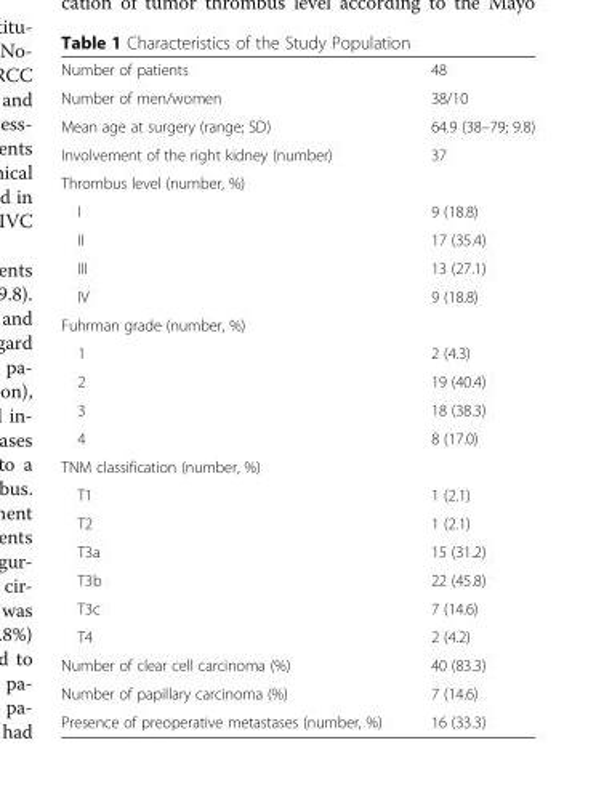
<table><tbody><tr><td>Number of patients</td><td>48</td></tr><tr><td>Number of men/women</td><td>38/10</td></tr><tr><td>Mean age at surgery (range; SD)</td><td>64.9 (38–79; 9.8)</td></tr><tr><td>Involvement of the right kidney (number)</td><td>37</td></tr><tr><td colspan="2">Thrombus level (number, %)</td></tr><tr><td>I</td><td>9 (18.8)</td></tr><tr><td>II</td><td>17 (35.4)</td></tr><tr><td>III</td><td>13 (27.1)</td></tr><tr><td>IV</td><td>9 (18.8)</td></tr><tr><td colspan="2">Fuhrman grade (number, %)</td></tr><tr><td>1</td><td>2 (4.3)</td></tr><tr><td>2</td><td>19 (40.4)</td></tr><tr><td>3</td><td>18 (38.3)</td></tr><tr><td>4</td><td>8 (17.0)</td></tr><tr><td colspan="2">TNM classification (number, %)</td></tr><tr><td>T1</td><td>1 (2.1)</td></tr><tr><td>T2</td><td>1 (2.1)</td></tr><tr><td>T3a</td><td>15 (31.2)</td></tr><tr><td>T3b</td><td>22 (45.8)</td></tr><tr><td>T3c</td><td>7 (14.6)</td></tr><tr><td>T4</td><td>2 (4.2)</td></tr><tr><td>Number of clear cell carcinoma (%)</td><td>40 (83.3)</td></tr><tr><td>Number of papillary carcinoma (%)</td><td>7 (14.6)</td></tr><tr><td>Presence of preoperative metastases (number, %)</td><td>16 (33.3)</td></tr></tbody></table>